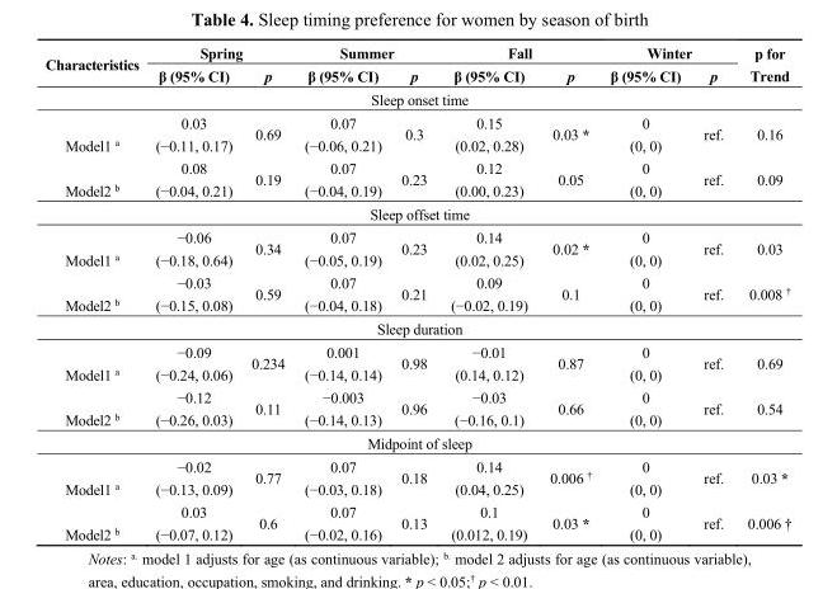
<table><thead><tr><td rowspan="2">Characteristics</td><td colspan="2">Spring</td><td colspan="2">Summer</td><td colspan="2">Fall</td><td colspan="2">Winter</td><td rowspan="2">p for Trend</td></tr><tr><td>β (95% CI)</td><td>p</td><td>β (95% CI)</td><td>p</td><td>β (95% CI)</td><td>p</td><td>β (95% CI)</td><td>p</td></tr></thead><tbody><tr><td colspan="10">Sleep onset time</td></tr><tr><td>Model1 <sup>a</sup></td><td>0.03 (−0.11, 0.17)</td><td>0.69</td><td>0.07 (−0.06, 0.21)</td><td>0.3</td><td>0.15 (0.02, 0.28)</td><td>0.03 *</td><td>0 (0, 0)</td><td>ref.</td><td>0.16</td></tr><tr><td>Model2 <sup>b</sup></td><td>0.08 (−0.04, 0.21)</td><td>0.19</td><td>0.07 (−0.04, 0.19)</td><td>0.23</td><td>0.12 (0.00, 0.23)</td><td>0.05</td><td>0 (0, 0)</td><td>ref.</td><td>0.09</td></tr><tr><td colspan="10">Sleep offset time</td></tr><tr><td>Model1 <sup>a</sup></td><td>−0.06 (−0.18, 0.64)</td><td>0.34</td><td>0.07 (−0.05, 0.19)</td><td>0.23</td><td>0.14 (0.02, 0.25)</td><td>0.02 *</td><td>0 (0, 0)</td><td>ref.</td><td>0.03</td></tr><tr><td>Model2 <sup>b</sup></td><td>−0.03 (−0.15, 0.08)</td><td>0.59</td><td>0.07 (−0.04, 0.18)</td><td>0.21</td><td>0.09 (−0.02, 0.19)</td><td>0.1</td><td>0 (0, 0)</td><td>ref.</td><td>0.008 <sup>†</sup></td></tr><tr><td colspan="10">Sleep duration</td></tr><tr><td>Model1 <sup>a</sup></td><td>−0.09 (−0.24, 0.06)</td><td>0.234</td><td>0.001 (−0.14, 0.14)</td><td>0.98</td><td>−0.01 (0.14, 0.12)</td><td>0.87</td><td>0 (0, 0)</td><td>ref.</td><td>0.69</td></tr><tr><td>Model2 <sup>b</sup></td><td>−0.12 (−0.26, 0.03)</td><td>0.11</td><td>−0.003 (−0.14, 0.13)</td><td>0.96</td><td>−0.03 (−0.16, 0.1)</td><td>0.66</td><td>0 (0, 0)</td><td>ref.</td><td>0.54</td></tr><tr><td colspan="10">Midpoint of sleep</td></tr><tr><td>Model1 <sup>a</sup></td><td>−0.02 (−0.13, 0.09)</td><td>0.77</td><td>0.07 (−0.03, 0.18)</td><td>0.18</td><td>0.14 (0.04, 0.25)</td><td>0.006 <sup>†</sup></td><td>0 (0, 0)</td><td>ref.</td><td>0.03 *</td></tr><tr><td>Model2 <sup>b</sup></td><td>0.03 (−0.07, 0.12)</td><td>0.6</td><td>0.07 (−0.02, 0.16)</td><td>0.13</td><td>0.1 (0.012, 0.19)</td><td>0.03 *</td><td>0 (0, 0)</td><td>ref.</td><td>0.006 †</td></tr></tbody></table>